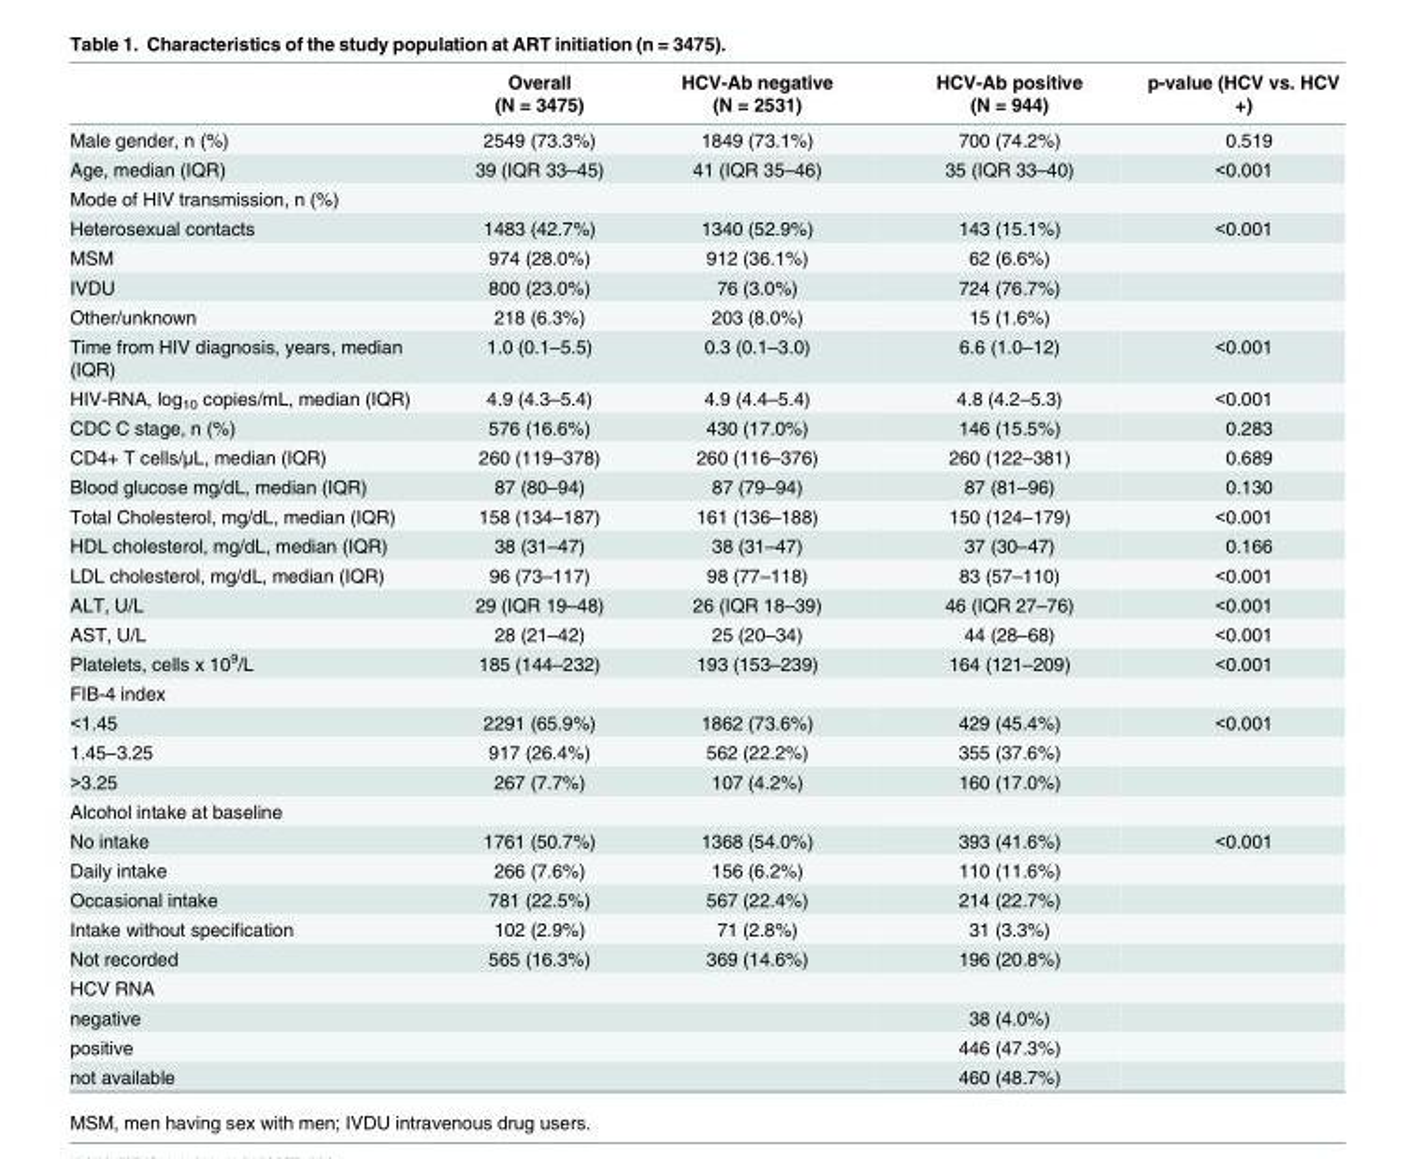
<table><thead><tr><td></td><td>Overall (N = 3475)</td><td>HCV-Ab negative (N = 2531)</td><td>HCV-Ab positive (N = 944)</td><td>p-value (HCV vs. HCV +)</td></tr></thead><tbody><tr><td>Male gender, n (%)</td><td>2549 (73.3%)</td><td>1849 (73.1%)</td><td>700 (74.2%)</td><td>0.519</td></tr><tr><td>Age, median (IQR)</td><td>39 (IQR 33–45)</td><td>41 (IQR 35–46)</td><td>35 (IQR 33–40)</td><td>&lt;0.001</td></tr><tr><td colspan="5">Mode of HIV transmission, n (%)</td></tr><tr><td>Heterosexual contacts</td><td>1483 (42.7%)</td><td>1340 (52.9%)</td><td>143 (15.1%)</td><td>&lt;0.001</td></tr><tr><td>MSM</td><td>974 (28.0%)</td><td>912 (36.1%)</td><td>62 (6.6%)</td><td></td></tr><tr><td>IVDU</td><td>800 (23.0%)</td><td>76 (3.0%)</td><td>724 (76.7%)</td><td></td></tr><tr><td>Other/unknown</td><td>218 (6.3%)</td><td>203 (8.0%)</td><td>15 (1.6%)</td><td></td></tr><tr><td>Time from HIV diagnosis, years, median (IQR)</td><td>1.0 (0.1–5.5)</td><td>0.3 (0.1–3.0)</td><td>6.6 (1.0–12)</td><td>&lt;0.001</td></tr><tr><td>HIV-RNA, log<sub>10</sub> copies/mL, median (IQR)</td><td>4.9 (4.3–5.4)</td><td>4.9 (4.4–5.4)</td><td>4.8 (4.2–5.3)</td><td>&lt;0.001</td></tr><tr><td>CDC C stage, n (%)</td><td>576 (16.6%)</td><td>430 (17.0%)</td><td>146 (15.5%)</td><td>0.283</td></tr><tr><td>CD4+ T cells/μL, median (IQR)</td><td>260 (119–378)</td><td>260 (116–376)</td><td>260 (122–381)</td><td>0.689</td></tr><tr><td>Blood glucose mg/dL, median (IQR)</td><td>87 (80–94)</td><td>87 (79–94)</td><td>87 (81–96)</td><td>0.130</td></tr><tr><td>Total Cholesterol, mg/dL, median (IQR)</td><td>158 (134–187)</td><td>161 (136–188)</td><td>150 (124–179)</td><td>&lt;0.001</td></tr><tr><td>HDL cholesterol, mg/dL, median (IQR)</td><td>38 (31–47)</td><td>38 (31–47)</td><td>37 (30–47)</td><td>0.166</td></tr><tr><td>LDL cholesterol, mg/dL, median (IQR)</td><td>96 (73–117)</td><td>98 (77–118)</td><td>83 (57–110)</td><td>&lt;0.001</td></tr><tr><td>ALT, U/L</td><td>29 (IQR 19–48)</td><td>26 (IQR 18–39)</td><td>46 (IQR 27–76)</td><td>&lt;0.001</td></tr><tr><td>AST, U/L</td><td>28 (21–42)</td><td>25 (20–34)</td><td>44 (28–68)</td><td>&lt;0.001</td></tr><tr><td>Platelets, cells x 10<sup>9</sup>/L</td><td>185 (144–232)</td><td>193 (153–239)</td><td>164 (121–209)</td><td>&lt;0.001</td></tr><tr><td colspan="5">FIB-4 index</td></tr><tr><td>&lt;1.45</td><td>2291 (65.9%)</td><td>1862 (73.6%)</td><td>429 (45.4%)</td><td>&lt;0.001</td></tr><tr><td>1.45–3.25</td><td>917 (26.4%)</td><td>562 (22.2%)</td><td>355 (37.6%)</td><td></td></tr><tr><td>&gt;3.25</td><td>267 (7.7%)</td><td>107 (4.2%)</td><td>160 (17.0%)</td><td></td></tr><tr><td colspan="5">Alcohol intake at baseline</td></tr><tr><td>No intake</td><td>1761 (50.7%)</td><td>1368 (54.0%)</td><td>393 (41.6%)</td><td>&lt;0.001</td></tr><tr><td>Daily intake</td><td>266 (7.6%)</td><td>156 (6.2%)</td><td>110 (11.6%)</td><td></td></tr><tr><td>Occasional intake</td><td>781 (22.5%)</td><td>567 (22.4%)</td><td>214 (22.7%)</td><td></td></tr><tr><td>Intake without specification</td><td>102 (2.9%)</td><td>71 (2.8%)</td><td>31 (3.3%)</td><td></td></tr><tr><td>Not recorded</td><td>565 (16.3%)</td><td>369 (14.6%)</td><td>196 (20.8%)</td><td></td></tr><tr><td colspan="5">HCV RNA</td></tr><tr><td>negative</td><td></td><td></td><td>38 (4.0%)</td><td></td></tr><tr><td>positive</td><td></td><td></td><td>446 (47.3%)</td><td></td></tr><tr><td>not available</td><td></td><td></td><td>460 (48.7%)</td><td></td></tr></tbody></table>